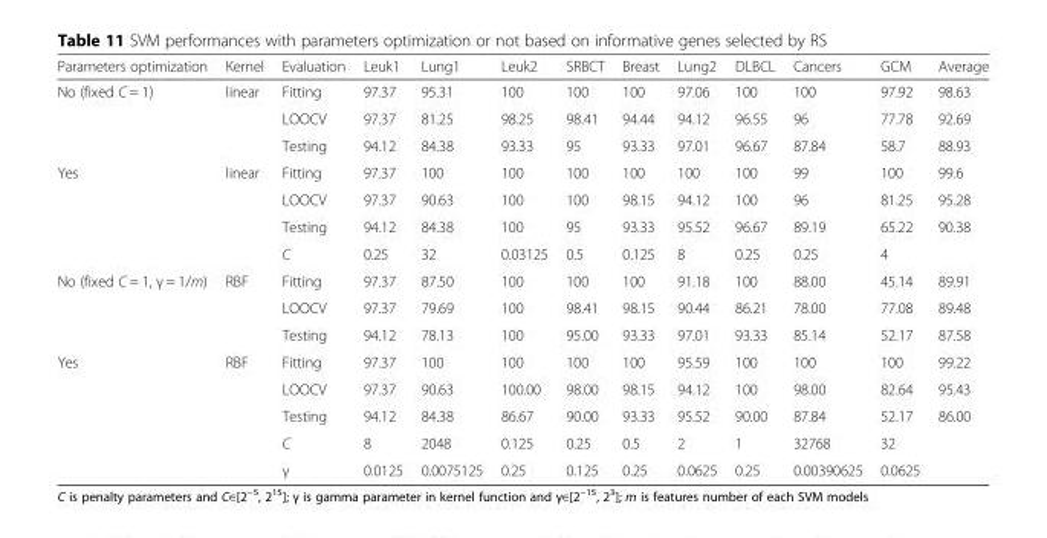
<table><thead><tr><td>Parameters optimization</td><td>Kernel</td><td>Evaluation</td><td>Leuk1</td><td>Lung1</td><td>Leuk2</td><td>SRBCT</td><td>Breast</td><td>Lung2</td><td>DLBCL</td><td>Cancers</td><td>GCM</td><td>Average</td></tr></thead><tbody><tr><td rowspan="3">No (fixed C = 1)</td><td rowspan="3">linear</td><td>Fitting</td><td>97.37</td><td>95.31</td><td>100</td><td>100</td><td>100</td><td>97.06</td><td>100</td><td>100</td><td>97.92</td><td>98.63</td></tr><tr><td>LOOCV</td><td>97.37</td><td>81.25</td><td>98.25</td><td>98.41</td><td>94.44</td><td>94.12</td><td>96.55</td><td>96</td><td>77.78</td><td>92.69</td></tr><tr><td>Testing</td><td>94.12</td><td>84.38</td><td>93.33</td><td>95</td><td>93.33</td><td>97.01</td><td>96.67</td><td>87.84</td><td>58.7</td><td>88.93</td></tr><tr><td rowspan="4">Yes</td><td rowspan="4">linear</td><td>Fitting</td><td>97.37</td><td>100</td><td>100</td><td>100</td><td>100</td><td>100</td><td>100</td><td>99</td><td>100</td><td>99.6</td></tr><tr><td>LOOCV</td><td>97.37</td><td>90.63</td><td>100</td><td>100</td><td>98.15</td><td>94.12</td><td>100</td><td>96</td><td>81.25</td><td>95.28</td></tr><tr><td>Testing</td><td>94.12</td><td>84.38</td><td>100</td><td>95</td><td>93.33</td><td>95.52</td><td>96.67</td><td>89.19</td><td>65.22</td><td>90.38</td></tr><tr><td>C</td><td>0.25</td><td>32</td><td>0.03125</td><td>0.5</td><td>0.125</td><td>8</td><td>0.25</td><td>0.25</td><td>4</td><td></td></tr><tr><td rowspan="3">No (fixed C = 1, γ = 1/m)</td><td rowspan="3">RBF</td><td>Fitting</td><td>97.37</td><td>87.50</td><td>100</td><td>100</td><td>100</td><td>91.18</td><td>100</td><td>88.00</td><td>45.14</td><td>89.91</td></tr><tr><td>LOOCV</td><td>97.37</td><td>79.69</td><td>100</td><td>98.41</td><td>98.15</td><td>90.44</td><td>86.21</td><td>78.00</td><td>77.08</td><td>89.48</td></tr><tr><td>Testing</td><td>94.12</td><td>78.13</td><td>100</td><td>95.00</td><td>93.33</td><td>97.01</td><td>93.33</td><td>85.14</td><td>52.17</td><td>87.58</td></tr><tr><td rowspan="5">Yes</td><td rowspan="5">RBF</td><td>Fitting</td><td>97.37</td><td>100</td><td>100</td><td>100</td><td>100</td><td>95.59</td><td>100</td><td>100</td><td>100</td><td>99.22</td></tr><tr><td>LOOCV</td><td>97.37</td><td>90.63</td><td>100.00</td><td>98.00</td><td>98.15</td><td>94.12</td><td>100</td><td>98.00</td><td>82.64</td><td>95.43</td></tr><tr><td>Testing</td><td>94.12</td><td>84.38</td><td>86.67</td><td>90.00</td><td>93.33</td><td>95.52</td><td>90.00</td><td>87.84</td><td>52.17</td><td>86.00</td></tr><tr><td>C</td><td>8</td><td>2048</td><td>0.125</td><td>0.25</td><td>0.5</td><td>2</td><td>1</td><td>32768</td><td>32</td><td></td></tr><tr><td>γ</td><td>0.0125</td><td>0.0075125</td><td>0.25</td><td>0.125</td><td>0.25</td><td>0.0625</td><td>0.25</td><td>0.00390625</td><td>0.0625</td><td></td></tr></tbody></table>